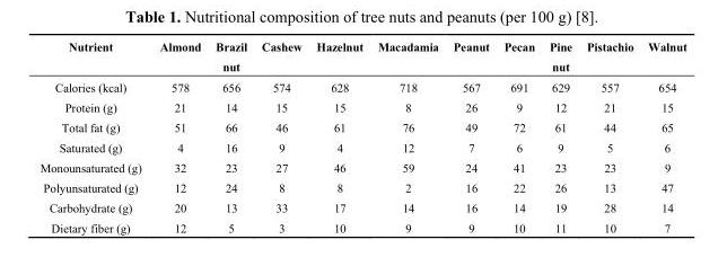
<table><thead><tr><td>Nutrient</td><td>Almond</td><td>Brazil nut</td><td>Cashew</td><td>Hazelnut</td><td>Macadamia</td><td>Peanut</td><td>Pecan</td><td>Pine nut</td><td>Pistachio</td><td>Walnut</td></tr></thead><tbody><tr><td>Calories (kcal)</td><td>578</td><td>656</td><td>574</td><td>628</td><td>718</td><td>567</td><td>691</td><td>629</td><td>557</td><td>654</td></tr><tr><td>Protein (g)</td><td>21</td><td>14</td><td>15</td><td>15</td><td>8</td><td>26</td><td>9</td><td>12</td><td>21</td><td>15</td></tr><tr><td>Total fat (g)</td><td>51</td><td>66</td><td>46</td><td>61</td><td>76</td><td>49</td><td>72</td><td>61</td><td>44</td><td>65</td></tr><tr><td>Saturated (g)</td><td>4</td><td>16</td><td>9</td><td>4</td><td>12</td><td>7</td><td>6</td><td>9</td><td>5</td><td>6</td></tr><tr><td>Monounsaturated (g)</td><td>32</td><td>23</td><td>27</td><td>46</td><td>59</td><td>24</td><td>41</td><td>23</td><td>23</td><td>9</td></tr><tr><td>Polyunsaturated (g)</td><td>12</td><td>24</td><td>8</td><td>8</td><td>2</td><td>16</td><td>22</td><td>26</td><td>13</td><td>47</td></tr><tr><td>Carbohydrate (g)</td><td>20</td><td>13</td><td>33</td><td>17</td><td>14</td><td>16</td><td>14</td><td>19</td><td>28</td><td>14</td></tr><tr><td>Dietary fiber (g)</td><td>12</td><td>5</td><td>3</td><td>10</td><td>9</td><td>9</td><td>10</td><td>11</td><td>10</td><td>7</td></tr></tbody></table>